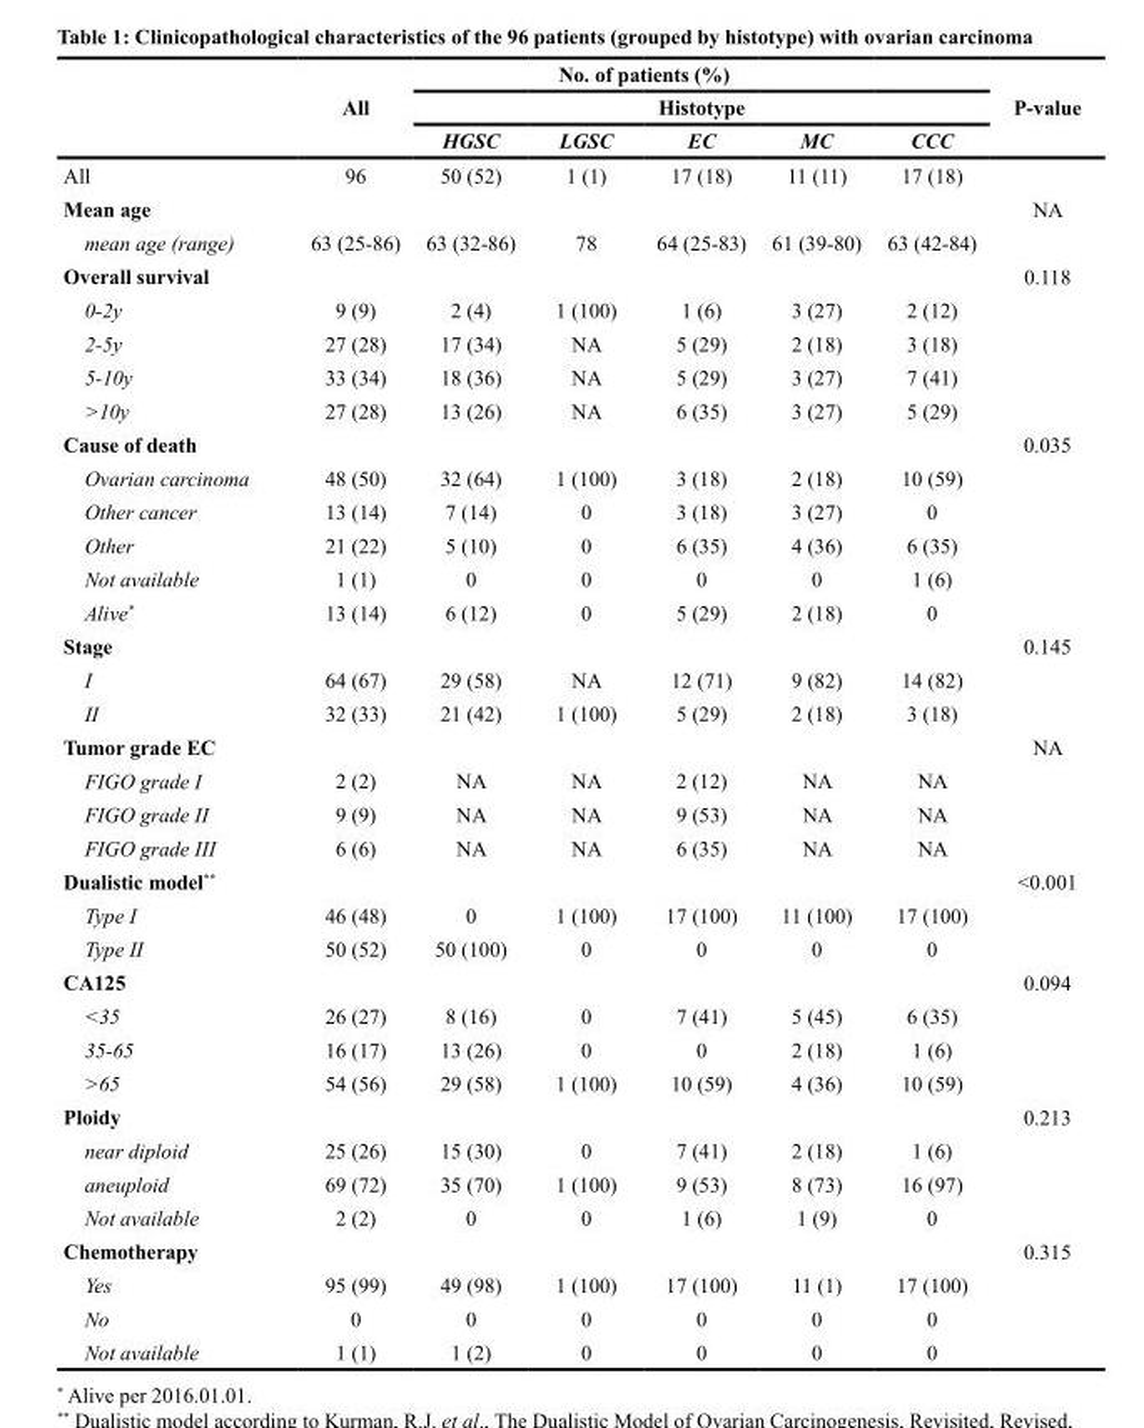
<table><thead><tr><td rowspan="3"></td><td colspan="6">No. of patients (%)</td><td rowspan="3">P-value</td></tr><tr><td rowspan="2">All</td><td colspan="5">Histotype</td></tr><tr><td>HGSC</td><td>LGSC</td><td>EC</td><td>MC</td><td>CCC</td></tr></thead><tbody><tr><td>All</td><td>96</td><td>50 (52)</td><td>1 (1)</td><td>17 (18)</td><td>11 (11)</td><td>17 (18)</td><td></td></tr><tr><td>Mean age</td><td></td><td></td><td></td><td></td><td></td><td></td><td>NA</td></tr><tr><td>mean age (range)</td><td>63 (25-86)</td><td>63 (32-86)</td><td>78</td><td>64 (25-83)</td><td>61 (39-80)</td><td>63 (42-84)</td><td></td></tr><tr><td>Overall survival</td><td></td><td></td><td></td><td></td><td></td><td></td><td>0.118</td></tr><tr><td>0-2y</td><td>9 (9)</td><td>2 (4)</td><td>1 (100)</td><td>1 (6)</td><td>3 (27)</td><td>2 (12)</td><td></td></tr><tr><td>2-5y</td><td>27 (28)</td><td>17 (34)</td><td>NA</td><td>5 (29)</td><td>2 (18)</td><td>3 (18)</td><td></td></tr><tr><td>5-10y</td><td>33 (34)</td><td>18 (36)</td><td>NA</td><td>5 (29)</td><td>3 (27)</td><td>7 (41)</td><td></td></tr><tr><td>&gt;10y</td><td>27 (28)</td><td>13 (26)</td><td>NA</td><td>6 (35)</td><td>3 (27)</td><td>5 (29)</td><td></td></tr><tr><td>Cause of death</td><td></td><td></td><td></td><td></td><td></td><td></td><td>0.035</td></tr><tr><td>Ovarian carcinoma</td><td>48 (50)</td><td>32 (64)</td><td>1 (100)</td><td>3 (18)</td><td>2 (18)</td><td>10 (59)</td><td></td></tr><tr><td>Other cancer</td><td>13 (14)</td><td>7 (14)</td><td>0</td><td>3 (18)</td><td>3 (27)</td><td>0</td><td></td></tr><tr><td>Other</td><td>21 (22)</td><td>5 (10)</td><td>0</td><td>6 (35)</td><td>4 (36)</td><td>6 (35)</td><td></td></tr><tr><td>Not available</td><td>1 (1)</td><td>0</td><td>0</td><td>0</td><td>0</td><td>1 (6)</td><td></td></tr><tr><td>Alive*</td><td>13 (14)</td><td>6 (12)</td><td>0</td><td>5 (29)</td><td>2 (18)</td><td>0</td><td></td></tr><tr><td>Stage</td><td></td><td></td><td></td><td></td><td></td><td></td><td>0.145</td></tr><tr><td>I</td><td>64 (67)</td><td>29 (58)</td><td>NA</td><td>12 (71)</td><td>9 (82)</td><td>14 (82)</td><td></td></tr><tr><td>II</td><td>32 (33)</td><td>21 (42)</td><td>1 (100)</td><td>5 (29)</td><td>2 (18)</td><td>3 (18)</td><td></td></tr><tr><td>Tumor grade EC</td><td></td><td></td><td></td><td></td><td></td><td></td><td>NA</td></tr><tr><td>FIGO grade I</td><td>2 (2)</td><td>NA</td><td>NA</td><td>2 (12)</td><td>NA</td><td>NA</td><td></td></tr><tr><td>FIGO grade II</td><td>9 (9)</td><td>NA</td><td>NA</td><td>9 (53)</td><td>NA</td><td>NA</td><td></td></tr><tr><td>FIGO grade III</td><td>6 (6)</td><td>NA</td><td>NA</td><td>6 (35)</td><td>NA</td><td>NA</td><td></td></tr><tr><td>Dualistic model**</td><td></td><td></td><td></td><td></td><td></td><td></td><td>&lt;0.001</td></tr><tr><td>Type I</td><td>46 (48)</td><td>0</td><td>1 (100)</td><td>17 (100)</td><td>11 (100)</td><td>17 (100)</td><td></td></tr><tr><td>Type II</td><td>50 (52)</td><td>50 (100)</td><td>0</td><td>0</td><td>0</td><td>0</td><td></td></tr><tr><td>CA125</td><td></td><td></td><td></td><td></td><td></td><td></td><td>0.094</td></tr><tr><td>&lt;35</td><td>26 (27)</td><td>8 (16)</td><td>0</td><td>7 (41)</td><td>5 (45)</td><td>6 (35)</td><td></td></tr><tr><td>35-65</td><td>16 (17)</td><td>13 (26)</td><td>0</td><td>0</td><td>2 (18)</td><td>1 (6)</td><td></td></tr><tr><td>&gt;65</td><td>54 (56)</td><td>29 (58)</td><td>1 (100)</td><td>10 (59)</td><td>4 (36)</td><td>10 (59)</td><td></td></tr><tr><td>Ploidy</td><td></td><td></td><td></td><td></td><td></td><td></td><td>0.213</td></tr><tr><td>near diploid</td><td>25 (26)</td><td>15 (30)</td><td>0</td><td>7 (41)</td><td>2 (18)</td><td>1 (6)</td><td></td></tr><tr><td>aneuploid</td><td>69 (72)</td><td>35 (70)</td><td>1 (100)</td><td>9 (53)</td><td>8 (73)</td><td>16 (97)</td><td></td></tr><tr><td>Not available</td><td>2 (2)</td><td>0</td><td>0</td><td>1 (6)</td><td>1 (9)</td><td>0</td><td></td></tr><tr><td>Chemotherapy</td><td></td><td></td><td></td><td></td><td></td><td></td><td>0.315</td></tr><tr><td>Yes</td><td>95 (99)</td><td>49 (98)</td><td>1 (100)</td><td>17 (100)</td><td>11 (1)</td><td>17 (100)</td><td></td></tr><tr><td>No</td><td>0</td><td>0</td><td>0</td><td>0</td><td>0</td><td>0</td><td></td></tr><tr><td>Not available</td><td>1 (1)</td><td>1 (2)</td><td>0</td><td>0</td><td>0</td><td>0</td><td></td></tr></tbody></table>